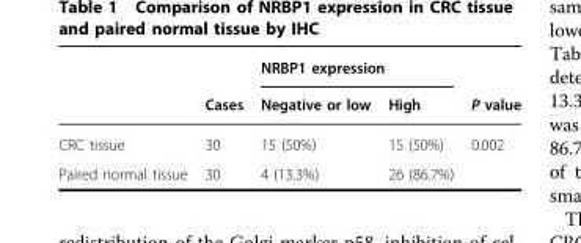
<table><thead><tr><td rowspan="2"></td><td rowspan="2">Cases</td><td colspan="2">NRBP1 expression</td><td rowspan="2">P value</td></tr><tr><td>Negative or low</td><td>High</td></tr></thead><tbody><tr><td>CRC tissue</td><td>30</td><td>15 (50%)</td><td>15 (50%)</td><td>0.002</td></tr><tr><td>Paired normal tissue</td><td>30</td><td>4 (13.3%)</td><td>26 (86.7%)</td><td></td></tr></tbody></table>